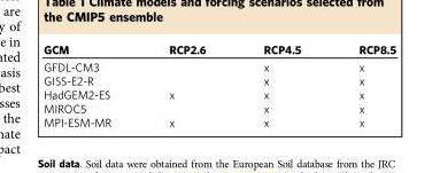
<table><thead><tr><td>GCM</td><td>RCP2.6</td><td>RCP4.5</td><td>RCP8.5</td></tr></thead><tbody><tr><td>GFDL-CM3</td><td></td><td>x</td><td>x</td></tr><tr><td>GISS-E2-R</td><td></td><td>x</td><td>x</td></tr><tr><td>HadGEM2-ES</td><td>x</td><td>x</td><td>x</td></tr><tr><td>MIROC5</td><td></td><td>x</td><td>x</td></tr><tr><td>MPI-ESM-MR</td><td>x</td><td>x</td><td>x</td></tr></tbody></table>